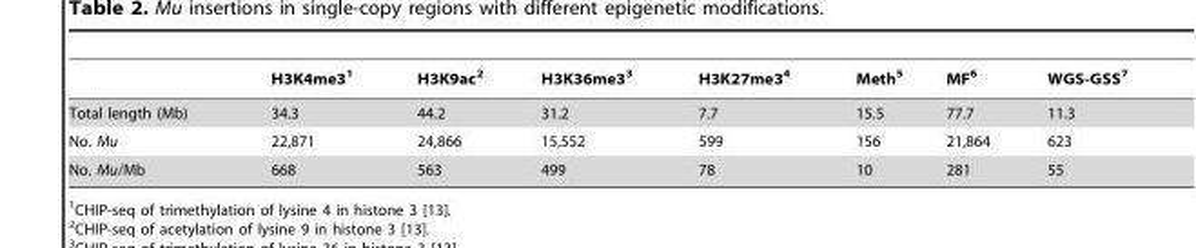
<table><thead><tr><td></td><td>H3K4me3<sup>1</sup></td><td>H3K9ac<sup>2</sup></td><td>H3K36me3<sup>3</sup></td><td>H3K27me3<sup>4</sup></td><td>Meth<sup>5</sup></td><td>MF<sup>6</sup></td><td>WGS-GSS<sup>7</sup></td></tr></thead><tbody><tr><td>Total length (Mb)</td><td>34.3</td><td>44.2</td><td>31.2</td><td>7.7</td><td>15.5</td><td>77.7</td><td>11.3</td></tr><tr><td>No. Mu</td><td>22,871</td><td>24,866</td><td>15,552</td><td>599</td><td>156</td><td>21,864</td><td>623</td></tr><tr><td>No. Mu/Mb</td><td>668</td><td>563</td><td>499</td><td>78</td><td>10</td><td>281</td><td>55</td></tr></tbody></table>